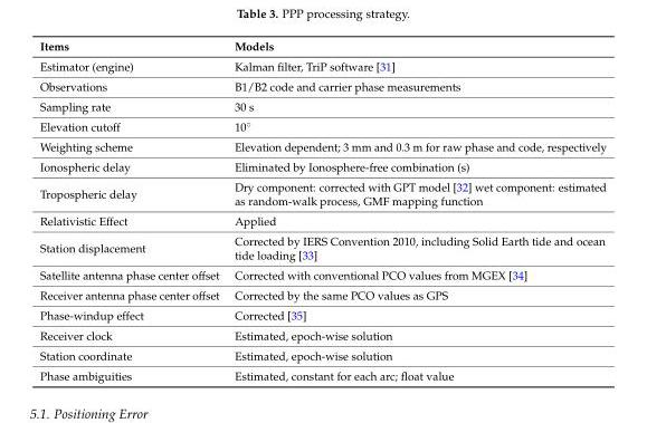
<table><thead><tr><td>Items</td><td>Models</td></tr></thead><tbody><tr><td>Estimator (engine)</td><td>Kalman filter, TriP software [31]</td></tr><tr><td>Observations</td><td>B1/B2 code and carrier phase measurements</td></tr><tr><td>Sampling rate</td><td>30 s</td></tr><tr><td>Elevation cutoff</td><td>10˝</td></tr><tr><td>Weighting scheme</td><td>Elevation dependent; 3 mm and 0.3 m for raw phase and code, respectively</td></tr><tr><td>Ionospheric delay</td><td>Eliminated by Ionosphere-free combination (s)</td></tr><tr><td>Tropospheric delay</td><td>Dry component: corrected with GPT model [32] wet component: estimated as random-walk process, GMF mapping function</td></tr><tr><td>Relativistic Effect</td><td>Applied</td></tr><tr><td>Station displacement</td><td>Corrected by IERS Convention 2010, including Solid Earth tide and ocean tide loading [33]</td></tr><tr><td>Satellite antenna phase center offset</td><td>Corrected with conventional PCO values from MGEX [34]</td></tr><tr><td>Receiver antenna phase center offset</td><td>Corrected by the same PCO values as GPS</td></tr><tr><td>Phase-windup effect</td><td>Corrected [35]</td></tr><tr><td>Receiver clock</td><td>Estimated, epoch-wise solution</td></tr><tr><td>Station coordinate</td><td>Estimated, epoch-wise solution</td></tr><tr><td>Phase ambiguities</td><td>Estimated, constant for each arc; float value</td></tr></tbody></table>